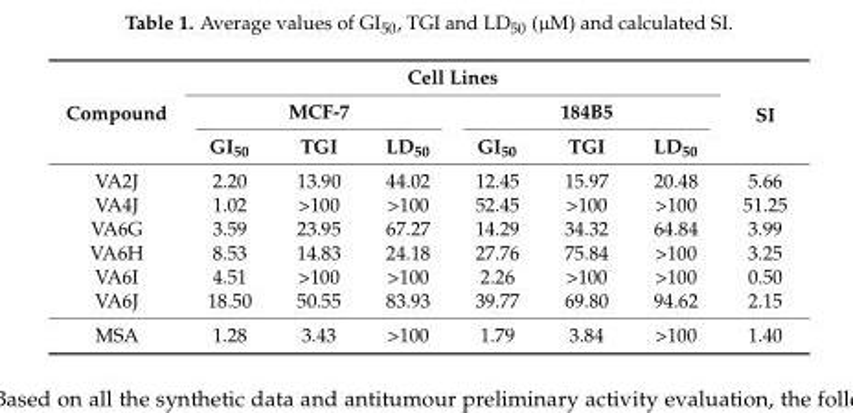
<table><thead><tr><td rowspan="3">Compound</td><td colspan="6">Cell Lines</td><td rowspan="3">SI</td></tr><tr><td colspan="3">MCF-7</td><td colspan="3">184B5</td></tr><tr><td>GI50</td><td>TGI</td><td>LD50</td><td>GI50</td><td>TGI</td><td>LD50</td></tr></thead><tbody><tr><td>VA2J</td><td>2.20</td><td>13.90</td><td>44.02</td><td>12.45</td><td>15.97</td><td>20.48</td><td>5.66</td></tr><tr><td>VA4J</td><td>1.02</td><td>&gt;100</td><td>&gt;100</td><td>52.45</td><td>&gt;100</td><td>&gt;100</td><td>51.25</td></tr><tr><td>VA6G</td><td>3.59</td><td>23.95</td><td>67.27</td><td>14.29</td><td>34.32</td><td>64.84</td><td>3.99</td></tr><tr><td>VA6H</td><td>8.53</td><td>14.83</td><td>24.18</td><td>27.76</td><td>75.84</td><td>&gt;100</td><td>3.25</td></tr><tr><td>VA6I</td><td>4.51</td><td>&gt;100</td><td>&gt;100</td><td>2.26</td><td>&gt;100</td><td>&gt;100</td><td>0.50</td></tr><tr><td>VA6J</td><td>18.50</td><td>50.55</td><td>83.93</td><td>39.77</td><td>69.80</td><td>94.62</td><td>2.15</td></tr><tr><td>MSA</td><td>1.28</td><td>3.43</td><td>&gt;100</td><td>1.79</td><td>3.84</td><td>&gt;100</td><td>1.40</td></tr></tbody></table>